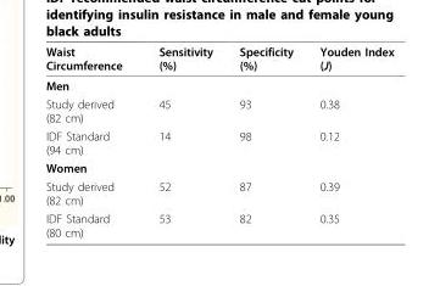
<table><thead><tr><td>Waist Circumference</td><td>Sensitivity (%)</td><td>Specificity (%)</td><td>Youden Index (J)</td></tr></thead><tbody><tr><td colspan="4">Men</td></tr><tr><td>Study derived (82 cm)</td><td>45</td><td>93</td><td>0.38</td></tr><tr><td>IDF Standard (94 cm)</td><td>14</td><td>98</td><td>0.12</td></tr><tr><td colspan="4">Women</td></tr><tr><td>Study derived (82 cm)</td><td>52</td><td>87</td><td>0.39</td></tr><tr><td>IDF Standard (80 cm)</td><td>53</td><td>82</td><td>0.35</td></tr></tbody></table>